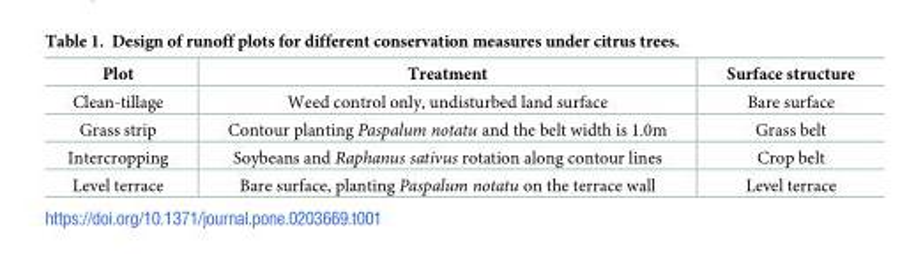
<table><thead><tr><td>Plot</td><td>Treatment</td><td>Surface structure</td></tr></thead><tbody><tr><td>Clean-tillage</td><td>Weed control only, undisturbed land surface</td><td>Bare surface</td></tr><tr><td>Grass strip</td><td>Contour planting Paspalum notatu and the belt width is 1.0m</td><td>Grass belt</td></tr><tr><td>Intercropping</td><td>Soybeans and Raphanus sativus rotation along contour lines</td><td>Crop belt</td></tr><tr><td>Level terrace</td><td>Bare surface, planting Paspalum notatu on the terrace wall</td><td>Level terrace</td></tr></tbody></table>